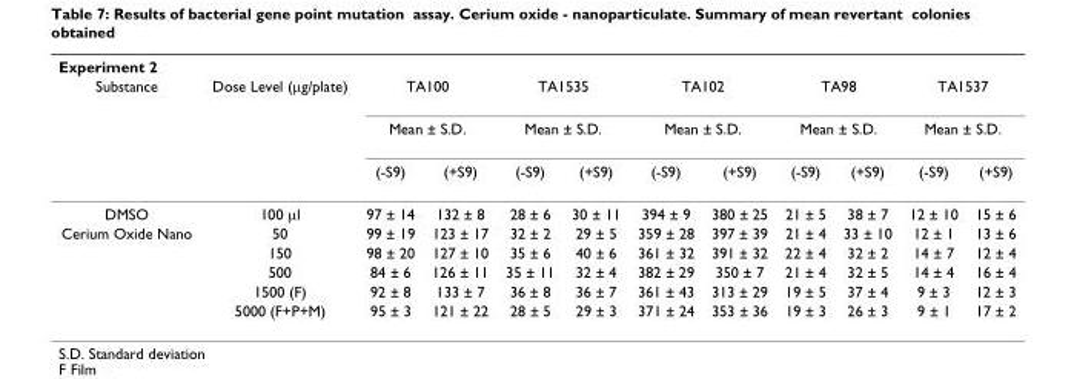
<table><thead><tr><td colspan="12">Experiment 2</td></tr><tr><td rowspan="3">Substance</td><td rowspan="3">Dose Level (μg/plate)</td><td rowspan="2" colspan="2">TA100 Mean ± S.D.</td><td rowspan="2" colspan="2">TA1535 Mean ± S.D.</td><td rowspan="2" colspan="2">TA102 Mean ± S.D.</td><td rowspan="2" colspan="2">TA98 Mean ± S.D.</td><td rowspan="2" colspan="2">TA1537 Mean ± S.D.</td></tr><tr></tr><tr><td>(-S9)</td><td>(+S9)</td><td>(-S9)</td><td>(+S9)</td><td>(-S9)</td><td>(+S9)</td><td>(-S9)</td><td>(+S9)</td><td>(-S9)</td><td>(+S9)</td></tr></thead><tbody><tr><td>DMSO</td><td>100 μl</td><td>97 ± 14</td><td>132 ± 8</td><td>28 ± 6</td><td>30 ± 11</td><td>394 ± 9</td><td>380 ± 25</td><td>21 ± 5</td><td>38 ± 7</td><td>12 ± 10</td><td>15 ± 6</td></tr><tr><td rowspan="5">Cerium Oxide Nano</td><td>50</td><td>99 ± 19</td><td>123 ± 17</td><td>32 ± 2</td><td>29 ± 5</td><td>359 ± 28</td><td>397 ± 39</td><td>21 ± 4</td><td>33 ± 10</td><td>12 ± 1</td><td>13 ± 6</td></tr><tr><td>150</td><td>98 ± 20</td><td>127 ± 10</td><td>35 ± 6</td><td>40 ± 6</td><td>361 ± 32</td><td>391 ± 32</td><td>22 ± 4</td><td>32 ± 2</td><td>14 ± 7</td><td>12 ± 4</td></tr><tr><td>500</td><td>84 ± 6</td><td>126 ± 11</td><td>35 ± 11</td><td>32 ± 4</td><td>382 ± 29</td><td>350 ± 7</td><td>21 ± 4</td><td>32 ± 5</td><td>14 ± 4</td><td>16 ± 4</td></tr><tr><td>1500 (F)</td><td>92 ± 8</td><td>133 ± 7</td><td>36 ± 8</td><td>36 ± 7</td><td>361 ± 43</td><td>313 ± 29</td><td>19 ± 5</td><td>37 ± 4</td><td>9 ± 3</td><td>12 ± 3</td></tr><tr><td>5000 (F+P+M)</td><td>95 ± 3</td><td>121 ± 22</td><td>28 ± 5</td><td>29 ± 3</td><td>371 ± 24</td><td>353 ± 36</td><td>19 ± 3</td><td>26 ± 3</td><td>9 ± 1</td><td>17 ± 2</td></tr></tbody></table>